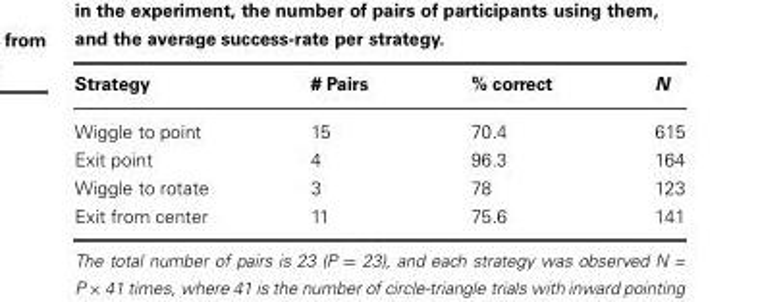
<table><thead><tr><td>Strategy</td><td># Pairs</td><td>% correct</td><td>N</td></tr></thead><tbody><tr><td>Wiggle to point</td><td>15</td><td>70.4</td><td>615</td></tr><tr><td>Exit point</td><td>4</td><td>96.3</td><td>164</td></tr><tr><td>Wiggle to rotate</td><td>3</td><td>78</td><td>123</td></tr><tr><td>Exit from center</td><td>11</td><td>75.6</td><td>141</td></tr></tbody></table>